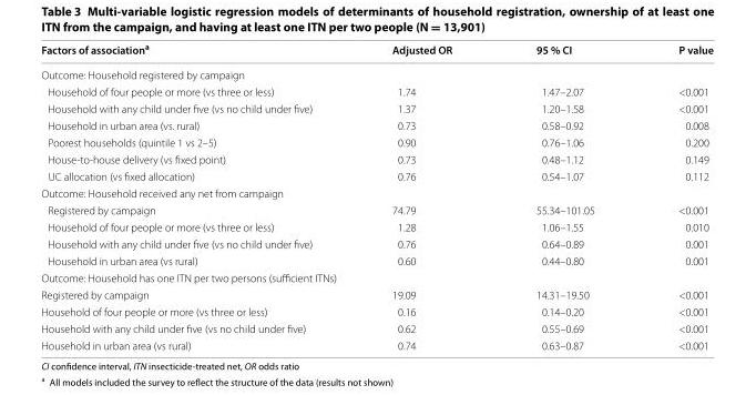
<table><thead><tr><td>Factors of association<sup>a</sup></td><td>Adjusted OR</td><td>95 % CI</td><td>P value</td></tr></thead><tbody><tr><td colspan="4">Outcome: Household registered by campaign</td></tr><tr><td>Household of four people or more (vs three or less)</td><td>1.74</td><td>1.47–2.07</td><td>&lt;0.001</td></tr><tr><td>Household with any child under five (vs no child under five)</td><td>1.37</td><td>1.20–1.58</td><td>&lt;0.001</td></tr><tr><td>Household in urban area (vs. rural)</td><td>0.73</td><td>0.58–0.92</td><td>0.008</td></tr><tr><td>Poorest households (quintile 1 vs 2–5)</td><td>0.90</td><td>0.76–1.06</td><td>0.200</td></tr><tr><td>House‑to‑house delivery (vs fixed point)</td><td>0.73</td><td>0.48–1.12</td><td>0.149</td></tr><tr><td>UC allocation (vs fixed allocation)</td><td>0.76</td><td>0.54–1.07</td><td>0.112</td></tr><tr><td colspan="4">Outcome: Household received any net from campaign</td></tr><tr><td>Registered by campaign</td><td>74.79</td><td>55.34–101.05</td><td>&lt;0.001</td></tr><tr><td>Household of four people or more (vs three or less)</td><td>1.28</td><td>1.06–1.55</td><td>0.010</td></tr><tr><td>Household with any child under five (vs no child under five)</td><td>0.76</td><td>0.64–0.89</td><td>0.001</td></tr><tr><td>Household in urban area (vs rural)</td><td>0.60</td><td>0.44–0.80</td><td>0.001</td></tr><tr><td colspan="4">Outcome: Household has one ITN per two persons (sufficient ITNs)</td></tr><tr><td>Registered by campaign</td><td>19.09</td><td>14.31–19.50</td><td>&lt;0.001</td></tr><tr><td>Household of four people or more (vs three or less)</td><td>0.16</td><td>0.14–0.20</td><td>&lt;0.001</td></tr><tr><td>Household with any child under five (vs no child under five)</td><td>0.62</td><td>0.55–0.69</td><td>&lt;0.001</td></tr><tr><td>Household in urban area (vs rural)</td><td>0.74</td><td>0.63–0.87</td><td>&lt;0.001</td></tr></tbody></table>